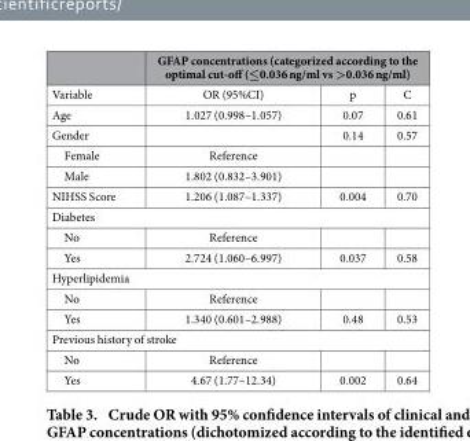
<table><thead><tr><td rowspan="2">Variable</td><td colspan="3">GFAP concentrations (categorized according to the optimal cut-off (≤0.036 ng/ml vs &gt;0.036 ng/ml)</td></tr><tr><td>OR (95%CI)</td><td>p</td><td>C</td></tr></thead><tbody><tr><td>Age</td><td>1.027 (0.998–1.057)</td><td>0.07</td><td>0.61</td></tr><tr><td>Gender</td><td></td><td>0.14</td><td>0.57</td></tr><tr><td>Female</td><td>Reference</td><td></td><td></td></tr><tr><td>Male</td><td>1.802 (0.832–3.901)</td><td></td><td></td></tr><tr><td>NIHSS Score</td><td>1.206 (1.087–1.337)</td><td>0.004</td><td>0.70</td></tr><tr><td colspan="4">Diabetes</td></tr><tr><td>No</td><td>Reference</td><td></td><td></td></tr><tr><td>Yes</td><td>2.724 (1.060–6.997)</td><td>0.037</td><td>0.58</td></tr><tr><td colspan="4">Hyperlipidemia</td></tr><tr><td>No</td><td>Reference</td><td></td><td></td></tr><tr><td>Yes</td><td>1.340 (0.601–2.988)</td><td>0.48</td><td>0.53</td></tr><tr><td colspan="4">Previous history of stroke</td></tr><tr><td>No</td><td>Reference</td><td></td><td></td></tr><tr><td>Yes</td><td>4.67 (1.77–12.34)</td><td>0.002</td><td>0.64</td></tr></tbody></table>